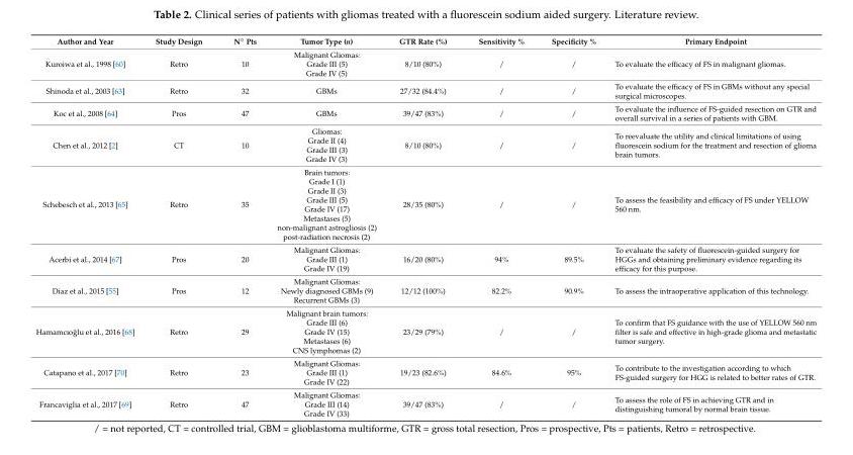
<table><thead><tr><td>Author and Year</td><td>Study Design</td><td>N◦ Pts</td><td>Tumor Type (n)</td><td>GTR Rate (%)</td><td>Sensitivity %</td><td>Specificity %</td><td>Primary Endpoint</td></tr></thead><tbody><tr><td>Kuroiwa et al., 1998 [60]</td><td>Retro</td><td>10</td><td>Malignant Gliomas: Grade III (5) Grade IV (5)</td><td>8/10 (80%)</td><td>/</td><td>/</td><td>To evaluate the efficacy of FS in malignant gliomas.</td></tr><tr><td>Shinoda et al., 2003 [63]</td><td>Retro</td><td>32</td><td>GBMs</td><td>27/32 (84.4%)</td><td>/</td><td>/</td><td>To evaluate the efficacy of FS in GBMs without any special surgical microscopes.</td></tr><tr><td>Koc et al., 2008 [64]</td><td>Pros</td><td>47</td><td>GBMs</td><td>39/47 (83%)</td><td>/</td><td>/</td><td>To evaluate the influence of FS-guided resection on GTR and overall survival in a series of patients with GBM.</td></tr><tr><td>Chen et al., 2012 [2]</td><td>CT</td><td>10</td><td>Gliomas: Grade II (4) Grade III (3) Grade IV (3)</td><td>8/10 (80%)</td><td>/</td><td>/</td><td>To reevaluate the utility and clinical limitations of using fluorescein sodium for the treatment and resection of glioma brain tumors.</td></tr><tr><td>Schebesch et al., 2013 [65]</td><td>Retro</td><td>35</td><td>Brain tumors: Grade I (1) Grade II (3) Grade III (5) Grade IV (17) Metastases (5) non-malignant astrogliosis (2) post-radiation necrosis (2)</td><td>28/35 (80%)</td><td>/</td><td>/</td><td>To assess the feasibility and efficacy of FS under YELLOW 560 nm.</td></tr><tr><td>Acerbi et al., 2014 [67]</td><td>Pros</td><td>20</td><td>Malignant Gliomas: Grade III (1) Grade IV (19)</td><td>16/20 (80%)</td><td>94%</td><td>89.5%</td><td>To evaluate the safety of fluorescein-guided surgery for HGGs and obtaining preliminary evidence regarding its efficacy for this purpose.</td></tr><tr><td>Diaz et al., 2015 [55]</td><td>Pros</td><td>12</td><td>Malignant Gliomas: Newly diagnosed GBMs (9) Recurrent GBMs (3)</td><td>12/12 (100%)</td><td>82.2%</td><td>90.9%</td><td>To assess the intraoperative application of this technology.</td></tr><tr><td>Hamamcıo˘glu et al., 2016 [68]</td><td>Retro</td><td>29</td><td>Malignant brain tumors: Grade III (6) Grade IV (15) Metastases (6) CNS lymphomas (2)</td><td>23/29 (79%)</td><td>/</td><td>/</td><td>To confirm that FS guidance with the use of YELLOW 560 nm filter is safe and effective in high-grade glioma and metastatic tumor surgery.</td></tr><tr><td>Catapano et al., 2017 [70]</td><td>Retro</td><td>23</td><td>Malignant Gliomas: Grade III (1) Grade IV (22)</td><td>19/23 (82.6%)</td><td>84.6%</td><td>95%</td><td>To contribute to the investigation according to which FS-guided surgery for HGG is related to better rates of GTR.</td></tr><tr><td>Francaviglia et al., 2017 [69]</td><td>Retro</td><td>47</td><td>Malignant Gliomas: Grade III (14) Grade IV (33)</td><td>39/47 (83%)</td><td>/</td><td>/</td><td>To assess the role of FS in achieving GTR and in distinguishing tumoral by normal brain tissue.</td></tr></tbody></table>